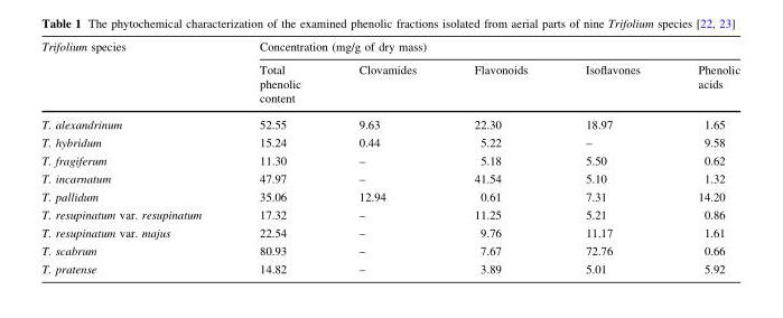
<table><thead><tr><td rowspan="2">Trifolium species</td><td colspan="5">Concentration (mg/g of dry mass)</td></tr><tr><td>Total phenolic content</td><td>Clovamides</td><td>Flavonoids</td><td>Isoflavones</td><td>Phenolic acids</td></tr></thead><tbody><tr><td>T. alexandrinum</td><td>52.55</td><td>9.63</td><td>22.30</td><td>18.97</td><td>1.65</td></tr><tr><td>T. hybridum</td><td>15.24</td><td>0.44</td><td>5.22</td><td>–</td><td>9.58</td></tr><tr><td>T. fragiferum</td><td>11.30</td><td>–</td><td>5.18</td><td>5.50</td><td>0.62</td></tr><tr><td>T. incarnatum</td><td>47.97</td><td>–</td><td>41.54</td><td>5.10</td><td>1.32</td></tr><tr><td>T. pallidum</td><td>35.06</td><td>12.94</td><td>0.61</td><td>7.31</td><td>14.20</td></tr><tr><td>T. resupinatum var. resupinatum</td><td>17.32</td><td>–</td><td>11.25</td><td>5.21</td><td>0.86</td></tr><tr><td>T. resupinatum var. majus</td><td>22.54</td><td>–</td><td>9.76</td><td>11.17</td><td>1.61</td></tr><tr><td>T. scabrum</td><td>80.93</td><td>–</td><td>7.67</td><td>72.76</td><td>0.66</td></tr><tr><td>T. pratense</td><td>14.82</td><td>–</td><td>3.89</td><td>5.01</td><td>5.92</td></tr></tbody></table>